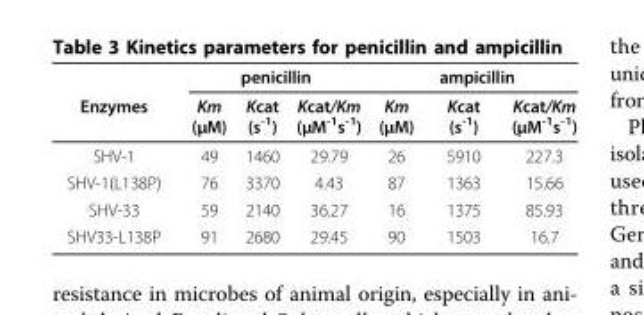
<table><thead><tr><td rowspan="2">Enzymes</td><td colspan="3">penicillin</td><td colspan="3">ampicillin</td></tr><tr><td>Km (μM)</td><td>Kcat (s<sup>-1</sup>)</td><td>Kcat/Km (μM<sup>-1</sup>s<sup>-1</sup>)</td><td>Km (μM)</td><td>Kcat (s<sup>-1</sup>)</td><td>Kcat/Km (μM<sup>-1</sup>s<sup>-1</sup>)</td></tr></thead><tbody><tr><td>SHV-1</td><td>49</td><td>1460</td><td>29.79</td><td>26</td><td>5910</td><td>227.3</td></tr><tr><td>SHV-1(L138P)</td><td>76</td><td>3370</td><td>4.43</td><td>87</td><td>1363</td><td>15.66</td></tr><tr><td>SHV-33</td><td>59</td><td>2140</td><td>36.27</td><td>16</td><td>1375</td><td>85.93</td></tr><tr><td>SHV33-L138P</td><td>91</td><td>2680</td><td>29.45</td><td>90</td><td>1503</td><td>16.7</td></tr></tbody></table>